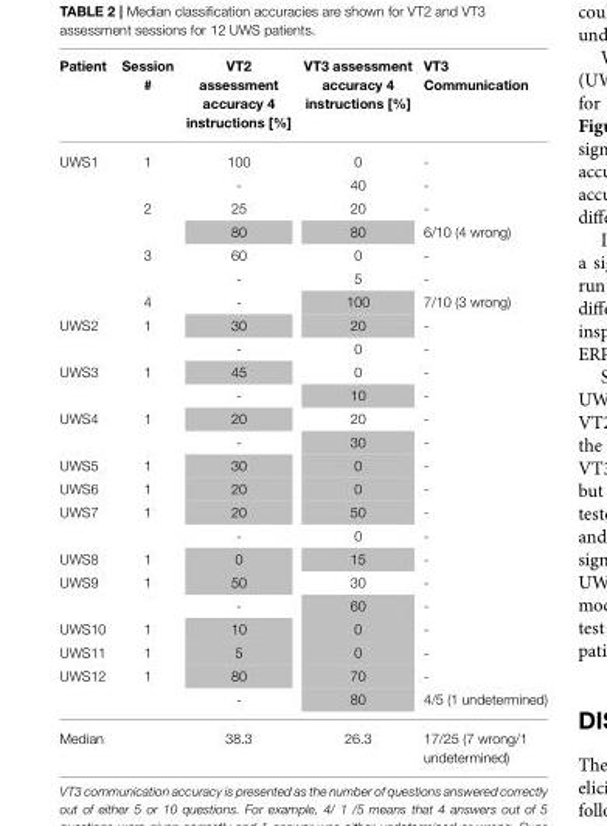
<table><thead><tr><td>Patient</td><td>Session #</td><td>VT2 assessment accuracy 4 instructions [%]</td><td>VT3 assessment accuracy 4 instructions [%]</td><td>VT3 Communication</td></tr></thead><tbody><tr><td rowspan="7">UWS1</td><td>1</td><td>100</td><td>0</td><td>-</td></tr><tr><td></td><td>-</td><td>40</td><td>-</td></tr><tr><td>2</td><td>25</td><td>20</td><td>-</td></tr><tr><td></td><td>80</td><td>80</td><td>6/10 (4 wrong)</td></tr><tr><td>3</td><td>60</td><td>0</td><td>-</td></tr><tr><td></td><td>-</td><td>5</td><td>-</td></tr><tr><td>4</td><td>-</td><td>100</td><td>7/10 (3 wrong)</td></tr><tr><td rowspan="2">UWS2</td><td>1</td><td>30</td><td>20</td><td>-</td></tr><tr><td></td><td>-</td><td>0</td><td>-</td></tr><tr><td rowspan="2">UWS3</td><td>1</td><td>45</td><td>0</td><td>-</td></tr><tr><td></td><td>-</td><td>10</td><td>-</td></tr><tr><td rowspan="2">UWS4</td><td>1</td><td>20</td><td>20</td><td>-</td></tr><tr><td></td><td>-</td><td>30</td><td>-</td></tr><tr><td>UWS5</td><td>1</td><td>30</td><td>0</td><td>-</td></tr><tr><td>UWS6</td><td>1</td><td>20</td><td>0</td><td>-</td></tr><tr><td rowspan="2">UWS7</td><td>1</td><td>20</td><td>50</td><td>-</td></tr><tr><td></td><td>-</td><td>0</td><td>-</td></tr><tr><td>UWS8</td><td>1</td><td>0</td><td>15</td><td>-</td></tr><tr><td rowspan="2">UWS9</td><td>1</td><td>50</td><td>30</td><td>-</td></tr><tr><td></td><td>-</td><td>60</td><td>-</td></tr><tr><td>UWS10</td><td>1</td><td>10</td><td>0</td><td>-</td></tr><tr><td>UWS11</td><td>1</td><td>5</td><td>0</td><td>-</td></tr><tr><td rowspan="2">UWS12</td><td>1</td><td>80</td><td>70</td><td>-</td></tr><tr><td></td><td>-</td><td>80</td><td>4/5 (1 undetermined)</td></tr><tr><td>Median</td><td></td><td>38.3</td><td>26.3</td><td>17/25 (7 wrong/1 undetermined)</td></tr></tbody></table>